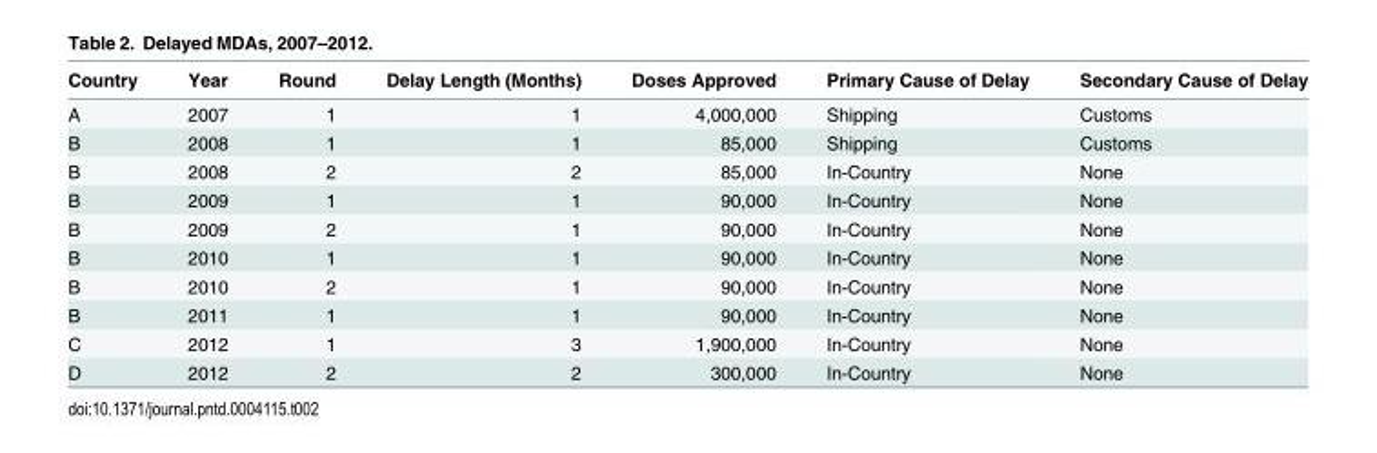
<table><thead><tr><td>Country</td><td>Year</td><td>Round</td><td>Delay Length (Months)</td><td>Doses Approved</td><td>Primary Cause of Delay</td><td>Secondary Cause of Delay</td></tr></thead><tbody><tr><td>A</td><td>2007</td><td>1</td><td>1</td><td>4,000,000</td><td>Shipping</td><td>Customs</td></tr><tr><td>B</td><td>2008</td><td>1</td><td>1</td><td>85,000</td><td>Shipping</td><td>Customs</td></tr><tr><td>B</td><td>2008</td><td>2</td><td>2</td><td>85,000</td><td>In-Country</td><td>None</td></tr><tr><td>B</td><td>2009</td><td>1</td><td>1</td><td>90,000</td><td>In-Country</td><td>None</td></tr><tr><td>B</td><td>2009</td><td>2</td><td>1</td><td>90,000</td><td>In-Country</td><td>None</td></tr><tr><td>B</td><td>2010</td><td>1</td><td>1</td><td>90,000</td><td>In-Country</td><td>None</td></tr><tr><td>B</td><td>2010</td><td>2</td><td>1</td><td>90,000</td><td>In-Country</td><td>None</td></tr><tr><td>B</td><td>2011</td><td>1</td><td>1</td><td>90,000</td><td>In-Country</td><td>None</td></tr><tr><td>C</td><td>2012</td><td>1</td><td>3</td><td>1,900,000</td><td>In-Country</td><td>None</td></tr><tr><td>D</td><td>2012</td><td>2</td><td>2</td><td>300,000</td><td>In-Country</td><td>None</td></tr></tbody></table>